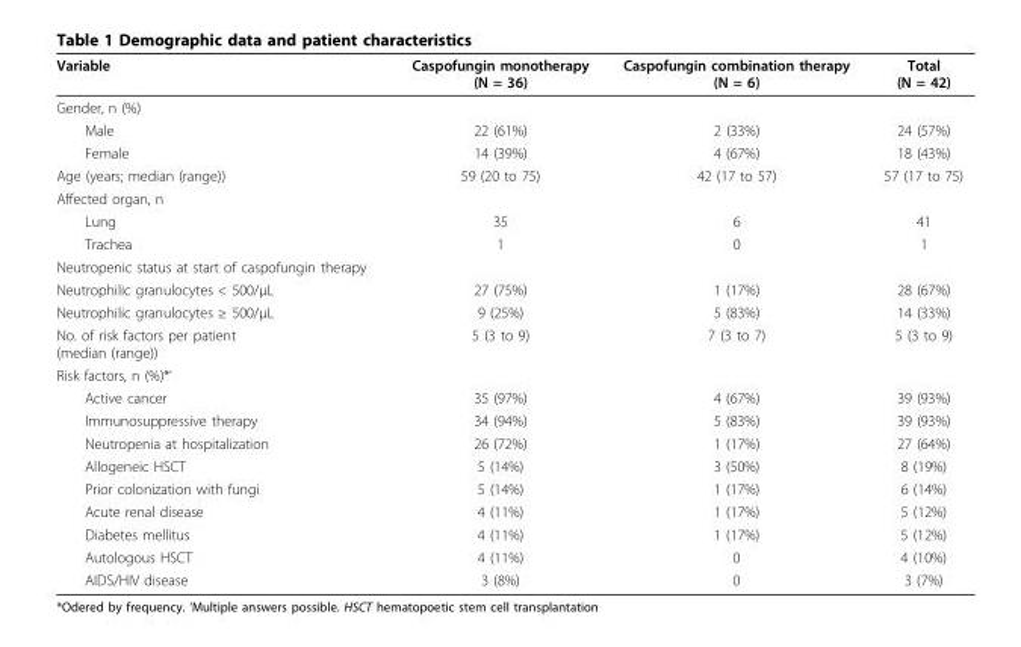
<table><thead><tr><td>Variable</td><td>Caspofungin monotherapy (N = 36)</td><td>Caspofungin combination therapy (N = 6)</td><td>Total (N = 42)</td></tr></thead><tbody><tr><td colspan="4">Gender, n (%)</td></tr><tr><td>Male</td><td>22 (61%)</td><td>2 (33%)</td><td>24 (57%)</td></tr><tr><td>Female</td><td>14 (39%)</td><td>4 (67%)</td><td>18 (43%)</td></tr><tr><td>Age (years; median (range))</td><td>59 (20 to 75)</td><td>42 (17 to 57)</td><td>57 (17 to 75)</td></tr><tr><td colspan="4">Affected organ, n</td></tr><tr><td>Lung</td><td>35</td><td>6</td><td>41</td></tr><tr><td>Trachea</td><td>1</td><td>0</td><td>1</td></tr><tr><td colspan="4">Neutropenic status at start of caspofungin therapy</td></tr><tr><td>Neutrophilic granulocytes &lt; 500/μL</td><td>27 (75%)</td><td>1 (17%)</td><td>28 (67%)</td></tr><tr><td>Neutrophilic granulocytes ≥ 500/μL</td><td>9 (25%)</td><td>5 (83%)</td><td>14 (33%)</td></tr><tr><td>No. of risk factors per patient (median (range))</td><td>5 (3 to 9)</td><td>7 (3 to 7)</td><td>5 (3 to 9)</td></tr><tr><td colspan="4">Risk factors, n (%)*’</td></tr><tr><td>Active cancer</td><td>35 (97%)</td><td>4 (67%)</td><td>39 (93%)</td></tr><tr><td>Immunosuppressive therapy</td><td>34 (94%)</td><td>5 (83%)</td><td>39 (93%)</td></tr><tr><td>Neutropenia at hospitalization</td><td>26 (72%)</td><td>1 (17%)</td><td>27 (64%)</td></tr><tr><td>Allogeneic HSCT</td><td>5 (14%)</td><td>3 (50%)</td><td>8 (19%)</td></tr><tr><td>Prior colonization with fungi</td><td>5 (14%)</td><td>1 (17%)</td><td>6 (14%)</td></tr><tr><td>Acute renal disease</td><td>4 (11%)</td><td>1 (17%)</td><td>5 (12%)</td></tr><tr><td>Diabetes mellitus</td><td>4 (11%)</td><td>1 (17%)</td><td>5 (12%)</td></tr><tr><td>Autologous HSCT</td><td>4 (11%)</td><td>0</td><td>4 (10%)</td></tr><tr><td>AIDS/HIV disease</td><td>3 (8%)</td><td>0</td><td>3 (7%)</td></tr></tbody></table>